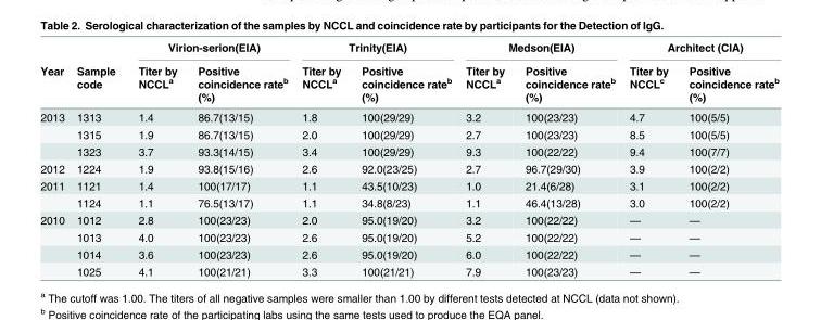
<table><thead><tr><td rowspan="2">Year</td><td rowspan="2">Sample code</td><td colspan="2">Virion-serion(EIA)</td><td colspan="2">Trinity(EIA)</td><td colspan="2">Medson(EIA)</td><td colspan="2">Architect (CIA)</td></tr><tr><td>Titer by NCCL<sup>a</sup></td><td>Positive coincidence rate<sup>b</sup> (%)</td><td>Titer by NCCL<sup>a</sup></td><td>Positive coincidence rate<sup>b</sup> (%)</td><td>Titer by NCCL<sup>a</sup></td><td>Positive coincidence rate<sup>b</sup> (%)</td><td>Titer by NCCL<sup>c</sup></td><td>Positive coincidence rate<sup>b</sup> (%)</td></tr></thead><tbody><tr><td rowspan="3">2013</td><td>1313</td><td>1.4</td><td>86.7(13/15)</td><td>1.8</td><td>100(29/29)</td><td>3.2</td><td>100(23/23)</td><td>4.7</td><td>100(5/5)</td></tr><tr><td>1315</td><td>1.9</td><td>86.7(13/15)</td><td>2.0</td><td>100(29/29)</td><td>2.7</td><td>100(23/23)</td><td>8.5</td><td>100(5/5)</td></tr><tr><td>1323</td><td>3.7</td><td>93.3(14/15)</td><td>3.4</td><td>100(29/29)</td><td>9.3</td><td>100(22/22)</td><td>9.4</td><td>100(7/7)</td></tr><tr><td>2012</td><td>1224</td><td>1.9</td><td>93.8(15/16)</td><td>2.6</td><td>92.0(23/25)</td><td>2.7</td><td>96.7(29/30)</td><td>3.9</td><td>100(2/2)</td></tr><tr><td rowspan="2">2011</td><td>1121</td><td>1.4</td><td>100(17/17)</td><td>1.1</td><td>43.5(10/23)</td><td>1.0</td><td>21.4(6/28)</td><td>3.1</td><td>100(2/2)</td></tr><tr><td>1124</td><td>1.1</td><td>76.5(13/17)</td><td>1.1</td><td>34.8(8/23)</td><td>1.1</td><td>46.4(13/28)</td><td>3.0</td><td>100(2/2)</td></tr><tr><td rowspan="4">2010</td><td>1012</td><td>2.8</td><td>100(23/23)</td><td>2.0</td><td>95.0(19/20)</td><td>3.2</td><td>100(22/22)</td><td>—</td><td>—</td></tr><tr><td>1013</td><td>4.0</td><td>100(23/23)</td><td>2.6</td><td>95.0(19/20)</td><td>5.2</td><td>100(22/22)</td><td>—</td><td>—</td></tr><tr><td>1014</td><td>3.6</td><td>100(23/23)</td><td>2.6</td><td>95.0(19/20)</td><td>6.0</td><td>100(22/22)</td><td>—</td><td>—</td></tr><tr><td>1025</td><td>4.1</td><td>100(21/21)</td><td>3.3</td><td>100(21/21)</td><td>7.9</td><td>100(23/23)</td><td>—</td><td>—</td></tr></tbody></table>